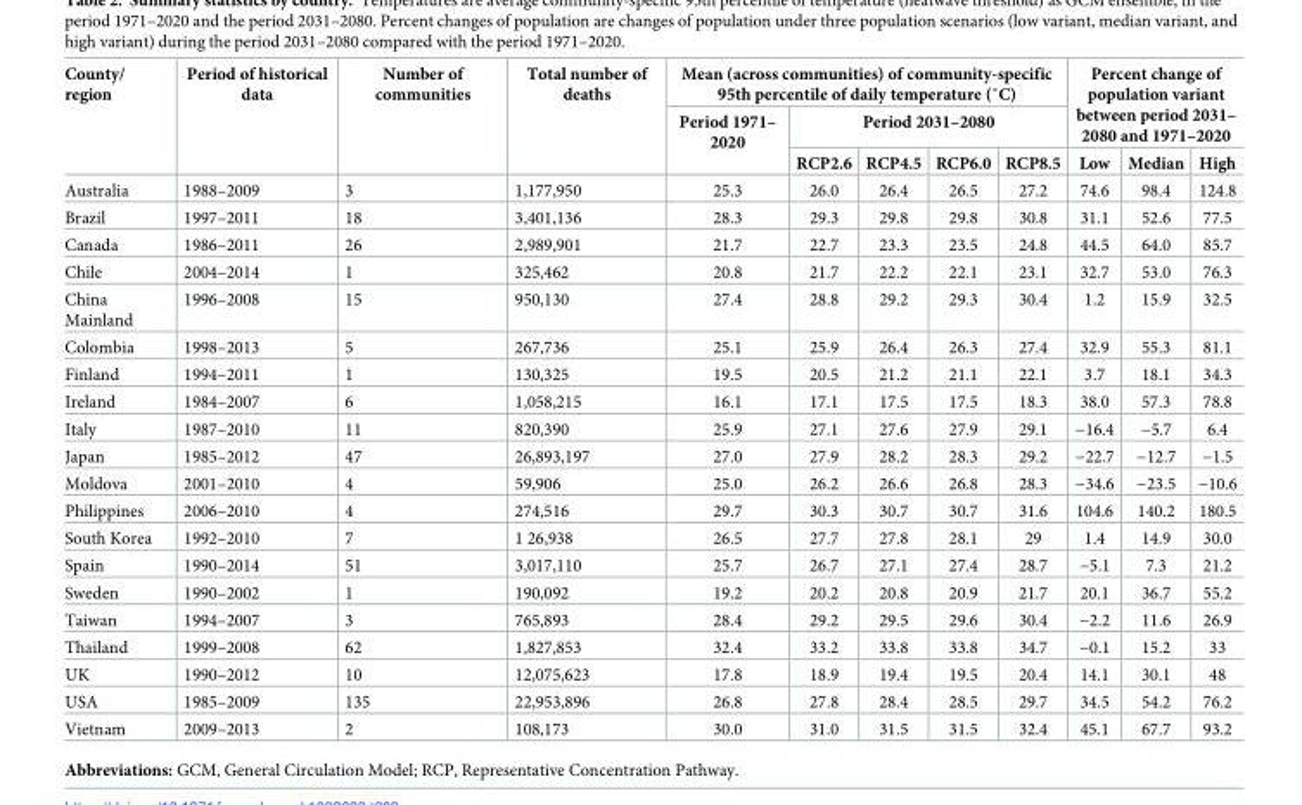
<table><thead><tr><td rowspan="3">County/ region</td><td rowspan="3">Period of historical data</td><td rowspan="3">Number of communities</td><td rowspan="3">Total number of deaths</td><td colspan="5">Mean (across communities) of community-specific 95th percentile of daily temperature (˚C)</td><td rowspan="2" colspan="3">Percent change of population variant between period 2031– 2080 and 1971–2020</td></tr><tr><td rowspan="2">Period 1971– 2020</td><td colspan="4">Period 2031–2080</td></tr><tr><td>RCP2.6</td><td>RCP4.5</td><td>RCP6.0</td><td>RCP8.5</td><td>Low</td><td>Median</td><td>High</td></tr></thead><tbody><tr><td>Australia</td><td>1988–2009</td><td>3</td><td>1,177,950</td><td>25.3</td><td>26.0</td><td>26.4</td><td>26.5</td><td>27.2</td><td>74.6</td><td>98.4</td><td>124.8</td></tr><tr><td>Brazil</td><td>1997–2011</td><td>18</td><td>3,401,136</td><td>28.3</td><td>29.3</td><td>29.8</td><td>29.8</td><td>30.8</td><td>31.1</td><td>52.6</td><td>77.5</td></tr><tr><td>Canada</td><td>1986–2011</td><td>26</td><td>2,989,901</td><td>21.7</td><td>22.7</td><td>23.3</td><td>23.5</td><td>24.8</td><td>44.5</td><td>64.0</td><td>85.7</td></tr><tr><td>Chile</td><td>2004–2014</td><td>1</td><td>325,462</td><td>20.8</td><td>21.7</td><td>22.2</td><td>22.1</td><td>23.1</td><td>32.7</td><td>53.0</td><td>76.3</td></tr><tr><td>China Mainland</td><td>1996–2008</td><td>15</td><td>950,130</td><td>27.4</td><td>28.8</td><td>29.2</td><td>29.3</td><td>30.4</td><td>1.2</td><td>15.9</td><td>32.5</td></tr><tr><td>Colombia</td><td>1998–2013</td><td>5</td><td>267,736</td><td>25.1</td><td>25.9</td><td>26.4</td><td>26.3</td><td>27.4</td><td>32.9</td><td>55.3</td><td>81.1</td></tr><tr><td>Finland</td><td>1994–2011</td><td>1</td><td>130,325</td><td>19.5</td><td>20.5</td><td>21.2</td><td>21.1</td><td>22.1</td><td>3.7</td><td>18.1</td><td>34.3</td></tr><tr><td>Ireland</td><td>1984–2007</td><td>6</td><td>1,058,215</td><td>16.1</td><td>17.1</td><td>17.5</td><td>17.5</td><td>18.3</td><td>38.0</td><td>57.3</td><td>78.8</td></tr><tr><td>Italy</td><td>1987–2010</td><td>11</td><td>820,390</td><td>25.9</td><td>27.1</td><td>27.6</td><td>27.9</td><td>29.1</td><td>−16.4</td><td>−5.7</td><td>6.4</td></tr><tr><td>Japan</td><td>1985–2012</td><td>47</td><td>26,893,197</td><td>27.0</td><td>27.9</td><td>28.2</td><td>28.3</td><td>29.2</td><td>−22.7</td><td>−12.7</td><td>−1.5</td></tr><tr><td>Moldova</td><td>2001–2010</td><td>4</td><td>59,906</td><td>25.0</td><td>26.2</td><td>26.6</td><td>26.8</td><td>28.3</td><td>−34.6</td><td>−23.5</td><td>−10.6</td></tr><tr><td>Philippines</td><td>2006–2010</td><td>4</td><td>274,516</td><td>29.7</td><td>30.3</td><td>30.7</td><td>30.7</td><td>31.6</td><td>104.6</td><td>140.2</td><td>180.5</td></tr><tr><td>South Korea</td><td>1992–2010</td><td>7</td><td>1 26,938</td><td>26.5</td><td>27.7</td><td>27.8</td><td>28.1</td><td>29</td><td>1.4</td><td>14.9</td><td>30.0</td></tr><tr><td>Spain</td><td>1990–2014</td><td>51</td><td>3,017,110</td><td>25.7</td><td>26.7</td><td>27.1</td><td>27.4</td><td>28.7</td><td>−5.1</td><td>7.3</td><td>21.2</td></tr><tr><td>Sweden</td><td>1990–2002</td><td>1</td><td>190,092</td><td>19.2</td><td>20.2</td><td>20.8</td><td>20.9</td><td>21.7</td><td>20.1</td><td>36.7</td><td>55.2</td></tr><tr><td>Taiwan</td><td>1994–2007</td><td>3</td><td>765,893</td><td>28.4</td><td>29.2</td><td>29.5</td><td>29.6</td><td>30.4</td><td>−2.2</td><td>11.6</td><td>26.9</td></tr><tr><td>Thailand</td><td>1999–2008</td><td>62</td><td>1,827,853</td><td>32.4</td><td>33.2</td><td>33.8</td><td>33.8</td><td>34.7</td><td>−0.1</td><td>15.2</td><td>33</td></tr><tr><td>UK</td><td>1990–2012</td><td>10</td><td>12,075,623</td><td>17.8</td><td>18.9</td><td>19.4</td><td>19.5</td><td>20.4</td><td>14.1</td><td>30.1</td><td>48</td></tr><tr><td>USA</td><td>1985–2009</td><td>135</td><td>22,953,896</td><td>26.8</td><td>27.8</td><td>28.4</td><td>28.5</td><td>29.7</td><td>34.5</td><td>54.2</td><td>76.2</td></tr><tr><td>Vietnam</td><td>2009–2013</td><td>2</td><td>108,173</td><td>30.0</td><td>31.0</td><td>31.5</td><td>31.5</td><td>32.4</td><td>45.1</td><td>67.7</td><td>93.2</td></tr></tbody></table>